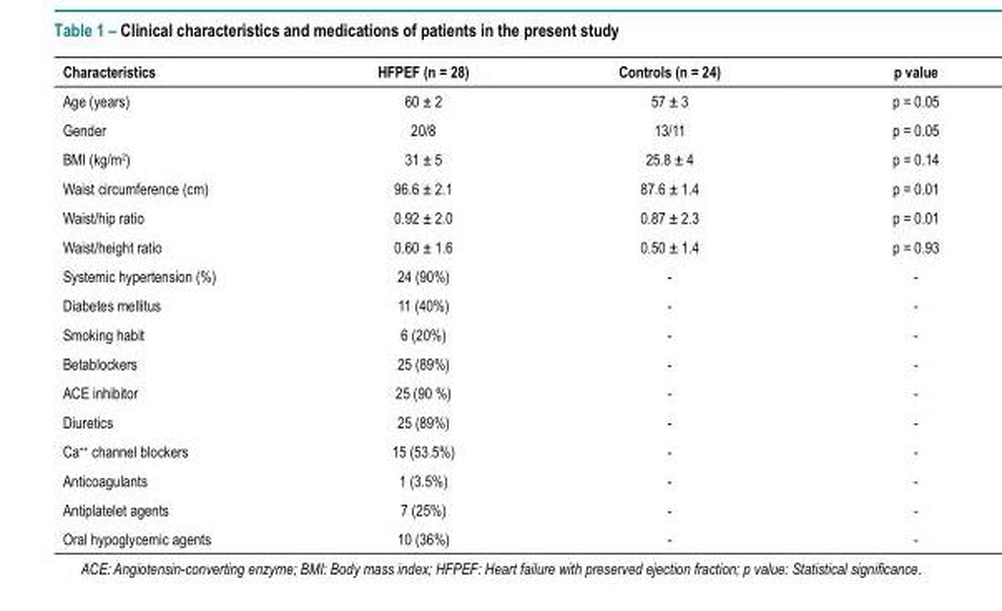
<table><thead><tr><td>Characteristics</td><td>HFPEF (n = 28)</td><td>Controls (n = 24)</td><td>p value</td></tr></thead><tbody><tr><td>Age (years)</td><td>60 ± 2</td><td>57 ± 3</td><td>p = 0.05</td></tr><tr><td>Gender</td><td>20/8</td><td>13/11</td><td>p = 0.05</td></tr><tr><td>BMI (kg/m<sup>2</sup>)</td><td>31 ± 5</td><td>25.8 ± 4</td><td>p = 0.14</td></tr><tr><td>Waist circumference (cm)</td><td>96.6 ± 2.1</td><td>87.6 ± 1.4</td><td>p = 0.01</td></tr><tr><td>Waist/hip ratio</td><td>0.92 ± 2.0</td><td>0.87 ± 2.3</td><td>p = 0.01</td></tr><tr><td>Waist/height ratio</td><td>0.60 ± 1.6</td><td>0.50 ± 1.4</td><td>p = 0.93</td></tr><tr><td>Systemic hypertension (%)</td><td>24 (90%)</td><td>-</td><td>-</td></tr><tr><td>Diabetes mellitus</td><td>11 (40%)</td><td>-</td><td>-</td></tr><tr><td>Smoking habit</td><td>6 (20%)</td><td>-</td><td>-</td></tr><tr><td>Betablockers</td><td>25 (89%)</td><td>-</td><td>-</td></tr><tr><td>ACE inhibitor</td><td>25 (90 %)</td><td>-</td><td>-</td></tr><tr><td>Diuretics</td><td>25 (89%)</td><td>-</td><td>-</td></tr><tr><td>Ca++ channel blockers</td><td>15 (53.5%)</td><td>-</td><td>-</td></tr><tr><td>Anticoagulants</td><td>1 (3.5%)</td><td>-</td><td>-</td></tr><tr><td>Antiplatelet agents</td><td>7 (25%)</td><td>-</td><td>-</td></tr><tr><td>Oral hypoglycemic agents</td><td>10 (36%)</td><td>-</td><td>-</td></tr></tbody></table>